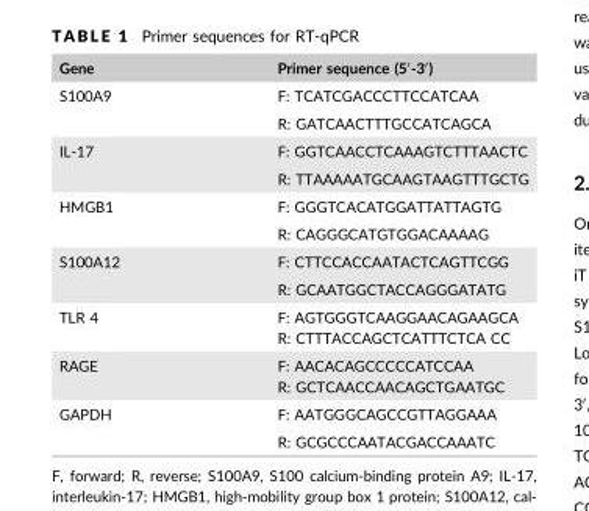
<table><thead><tr><td>Gene</td><td>Primer sequence (5′-3′)</td></tr></thead><tbody><tr><td rowspan="2">S100A9</td><td>F: TCATCGACCCTTCCATCAA</td></tr><tr><td>R: GATCAACTTTGCCATCAGCA</td></tr><tr><td rowspan="2">IL-17</td><td>F: GGTCAACCTCAAAGTCTTTAACTC</td></tr><tr><td>R: TTAAAAATGCAAGTAAGTTTGCTG</td></tr><tr><td rowspan="2">HMGB1</td><td>F: GGGTCACATGGATTATTAGTG</td></tr><tr><td>R: CAGGGCATGTGGACAAAAG</td></tr><tr><td rowspan="2">S100A12</td><td>F: CTTCCACCAATACTCAGTTCGG</td></tr><tr><td>R: GCAATGGCTACCAGGGATATG</td></tr><tr><td>TLR 4</td><td>F: AGTGGGTCAAGGAACAGAAGCA R: CTTTACCAGCTCATTTCTCA CC</td></tr><tr><td>RAGE</td><td>F: AACACAGCCCCCATCCAA R: GCTCAACCAACAGCTGAATGC</td></tr><tr><td rowspan="2">GAPDH</td><td>F: AATGGGCAGCCGTTAGGAAA</td></tr><tr><td>R: GCGCCCAATACGACCAAATC</td></tr></tbody></table>